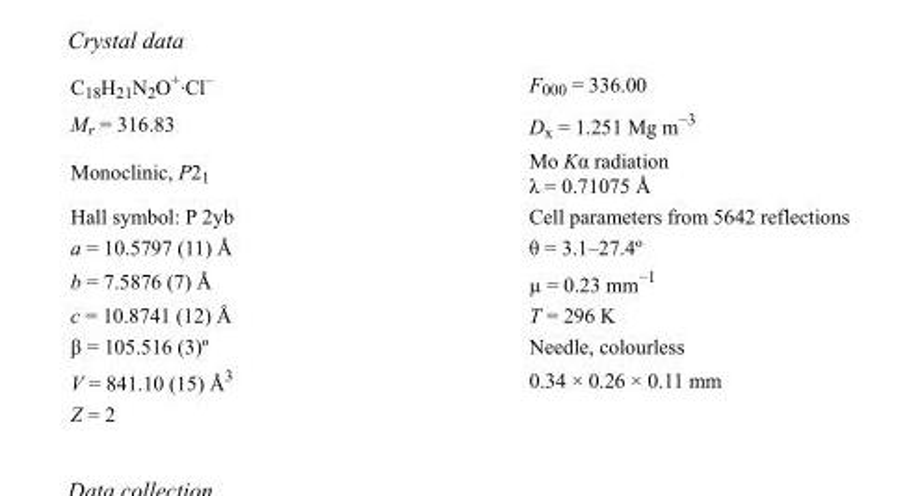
<table><tbody><tr><td>C<sub>18</sub>H<sub>21</sub>N<sub>2</sub>O<sup>+</sup>·Cl<sup>–</sup></td><td>F000 = 336.00</td></tr><tr><td>M<sub>r</sub> = 316.83</td><td>D<sub>x</sub> = 1.251 Mg m<sup>−3</sup></td></tr><tr><td>Monoclinic, P2<sub>1</sub></td><td>Mo Kα radiation λ = 0.71075 Å</td></tr><tr><td>Hall symbol: P 2yb</td><td>Cell parameters from 5642 reflections</td></tr><tr><td>a = 10.5797 (11) Å</td><td>θ = 3.1–27.4º</td></tr><tr><td>b = 7.5876 (7) Å</td><td>µ = 0.23 mm<sup>−1</sup></td></tr><tr><td>c = 10.8741 (12) Å</td><td>T = 296 K</td></tr><tr><td>β = 105.516 (3)º</td><td>Needle, colourless</td></tr><tr><td>V = 841.10 (15) Å<sup>3</sup></td><td>0.34 × 0.26 × 0.11 mm</td></tr><tr><td>Z = 2</td><td></td></tr></tbody></table>